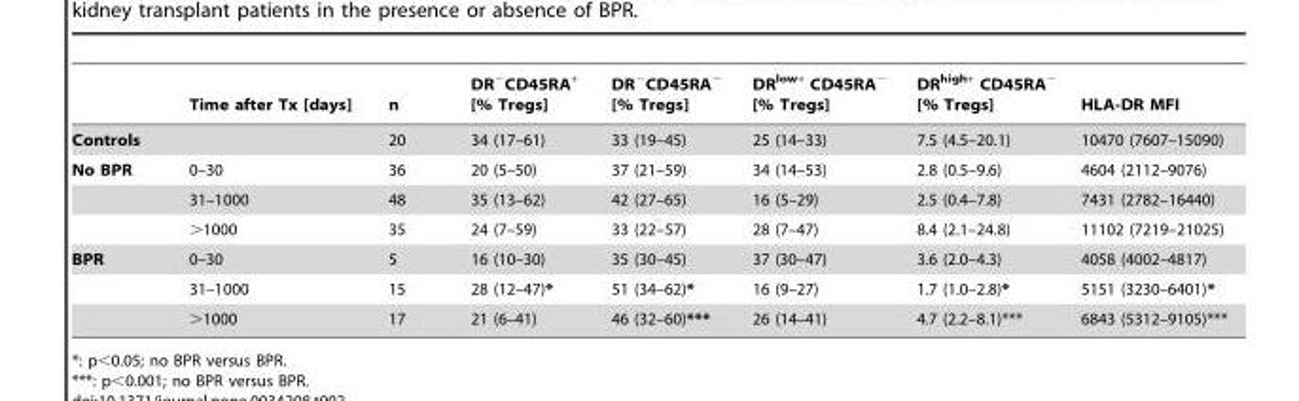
<table><thead><tr><td></td><td>Time after Tx [days]</td><td>n</td><td>DR<sup>−</sup>CD45RA<sup>+</sup> [% Tregs]</td><td>DR<sup>−</sup>CD45RA<sup>−</sup> [% Tregs]</td><td>DR<sup>low+</sup> CD45RA<sup>−</sup> [% Tregs]</td><td>DR<sup>high+</sup> CD45RA<sup>−</sup> [% Tregs]</td><td>HLA-DR MFI</td></tr></thead><tbody><tr><td>Controls</td><td></td><td>20</td><td>34 (17–61)</td><td>33 (19–45)</td><td>25 (14–33)</td><td>7.5 (4.5–20.1)</td><td>10470 (7607–15090)</td></tr><tr><td rowspan="3">No BPR</td><td>0–30</td><td>36</td><td>20 (5–50)</td><td>37 (21–59)</td><td>34 (14–53)</td><td>2.8 (0.5–9.6)</td><td>4604 (2112–9076)</td></tr><tr><td>31–1000</td><td>48</td><td>35 (13–62)</td><td>42 (27–65)</td><td>16 (5–29)</td><td>2.5 (0.4–7.8)</td><td>7431 (2782–16440)</td></tr><tr><td>&gt;1000</td><td>35</td><td>24 (7–59)</td><td>33 (22–57)</td><td>28 (7–47)</td><td>8.4 (2.1–24.8)</td><td>11102 (7219–21025)</td></tr><tr><td rowspan="3">BPR</td><td>0–30</td><td>5</td><td>16 (10–30)</td><td>35 (30–45)</td><td>37 (30–47)</td><td>3.6 (2.0–4.3)</td><td>4058 (4002–4817)</td></tr><tr><td>31–1000</td><td>15</td><td>28 (12–47)*</td><td>51 (34–62)*</td><td>16 (9–27)</td><td>1.7 (1.0–2.8)*</td><td>5151 (3230–6401)*</td></tr><tr><td>&gt;1000</td><td>17</td><td>21 (6–41)</td><td>46 (32–60)***</td><td>26 (14–41)</td><td>4.7 (2.2–8.1)***</td><td>6843 (5312–9105)***</td></tr></tbody></table>